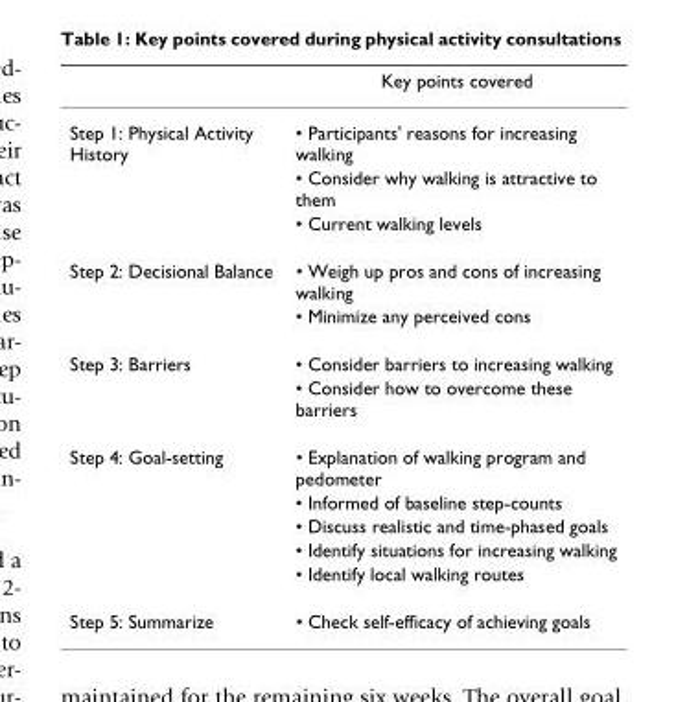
<table><thead><tr><td></td><td>Key points covered</td></tr></thead><tbody><tr><td rowspan="3">Step 1: Physical Activity History</td><td>• Participants&#x27; reasons for increasing walking</td></tr><tr><td>• Consider why walking is attractive to them</td></tr><tr><td>• Current walking levels</td></tr><tr><td rowspan="2">Step 2: Decisional Balance</td><td>• Weigh up pros and cons of increasing walking</td></tr><tr><td>• Minimize any perceived cons</td></tr><tr><td rowspan="2">Step 3: Barriers</td><td>• Consider barriers to increasing walking</td></tr><tr><td>• Consider how to overcome these barriers</td></tr><tr><td rowspan="5">Step 4: Goal-setting</td><td>• Explanation of walking program and pedometer</td></tr><tr><td>• Informed of baseline step-counts</td></tr><tr><td>• Discuss realistic and time-phased goals</td></tr><tr><td>• Identify situations for increasing walking</td></tr><tr><td>• Identify local walking routes</td></tr><tr><td>Step 5: Summarize</td><td>• Check self-efficacy of achieving goals</td></tr></tbody></table>